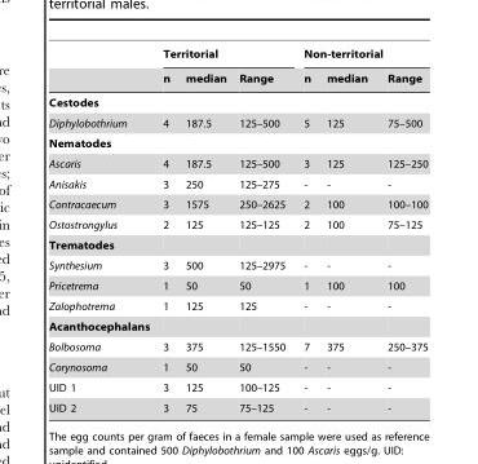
<table><thead><tr><td rowspan="2"></td><td colspan="3">Territorial</td><td colspan="3">Non-territorial</td></tr><tr><td>n</td><td>median</td><td>Range</td><td>n</td><td>median</td><td>Range</td></tr></thead><tbody><tr><td colspan="7">Cestodes</td></tr><tr><td>Diphylobothrium</td><td>4</td><td>187.5</td><td>125–500</td><td>5</td><td>125</td><td>75–500</td></tr><tr><td colspan="7">Nematodes</td></tr><tr><td>Ascaris</td><td>4</td><td>187.5</td><td>125–500</td><td>3</td><td>125</td><td>125–250</td></tr><tr><td>Anisakis</td><td>3</td><td>250</td><td>125–275</td><td>-</td><td>-</td><td>-</td></tr><tr><td>Contracaecum</td><td>3</td><td>1575</td><td>250–2625</td><td>2</td><td>100</td><td>100–100</td></tr><tr><td>Ostostrongylus</td><td>2</td><td>125</td><td>125–125</td><td>2</td><td>100</td><td>75–125</td></tr><tr><td colspan="7">Trematodes</td></tr><tr><td>Synthesium</td><td>3</td><td>500</td><td>125–2975</td><td>-</td><td>-</td><td>-</td></tr><tr><td>Pricetrema</td><td>1</td><td>50</td><td>50</td><td>1</td><td>100</td><td>100</td></tr><tr><td>Zalophotrema</td><td>1</td><td>125</td><td>125</td><td>-</td><td>-</td><td>-</td></tr><tr><td colspan="7">Acanthocephalans</td></tr><tr><td>Bolbosoma</td><td>3</td><td>375</td><td>125–1550</td><td>7</td><td>375</td><td>250–375</td></tr><tr><td>Corynosoma</td><td>1</td><td>50</td><td>50</td><td>-</td><td>-</td><td>-</td></tr><tr><td>UID 1</td><td>3</td><td>125</td><td>100–125</td><td>-</td><td>-</td><td>-</td></tr><tr><td>UID 2</td><td>3</td><td>75</td><td>75–125</td><td>-</td><td>-</td><td>-</td></tr></tbody></table>